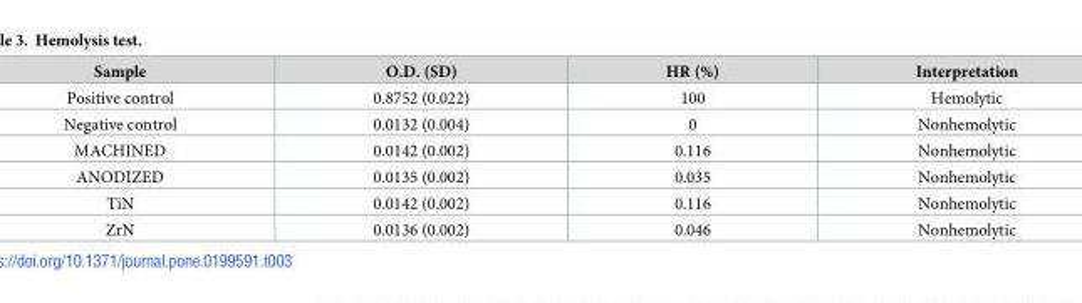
<table><thead><tr><td>Sample</td><td>O.D. (SD)</td><td>HR (%)</td><td>Interpretation</td></tr></thead><tbody><tr><td>Positive control</td><td>0.8752 (0.022)</td><td>100</td><td>Hemolytic</td></tr><tr><td>Negative control</td><td>0.0132 (0.004)</td><td>0</td><td>Nonhemolytic</td></tr><tr><td>MACHINED</td><td>0.0142 (0.002)</td><td>0.116</td><td>Nonhemolytic</td></tr><tr><td>ANODIZED</td><td>0.0135 (0.002)</td><td>0.035</td><td>Nonhemolytic</td></tr><tr><td>TiN</td><td>0.0142 (0.002)</td><td>0.116</td><td>Nonhemolytic</td></tr><tr><td>ZrN</td><td>0.0136 (0.002)</td><td>0.046</td><td>Nonhemolytic</td></tr></tbody></table>